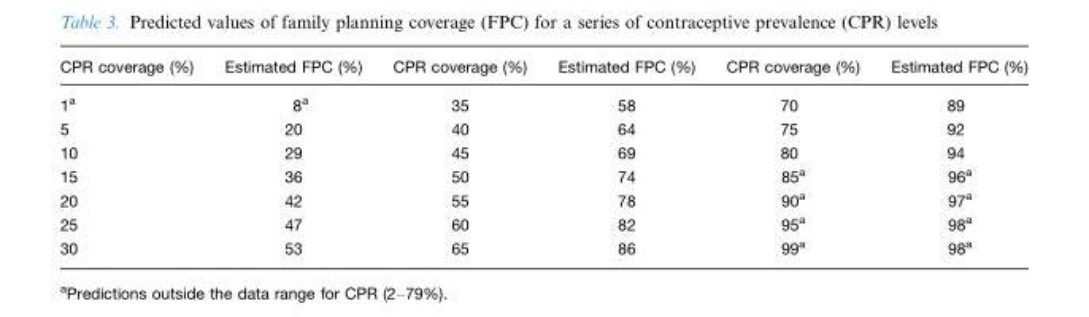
<table><thead><tr><td>CPR coverage (%)</td><td>Estimated FPC (%)</td><td>CPR coverage (%)</td><td>Estimated FPC (%)</td><td>CPR coverage (%)</td><td>Estimated FPC (%)</td></tr></thead><tbody><tr><td>1<sup>a</sup></td><td>8<sup>a</sup></td><td>35</td><td>58</td><td>70</td><td>89</td></tr><tr><td>5</td><td>20</td><td>40</td><td>64</td><td>75</td><td>92</td></tr><tr><td>10</td><td>29</td><td>45</td><td>69</td><td>80</td><td>94</td></tr><tr><td>15</td><td>36</td><td>50</td><td>74</td><td>85<sup>a</sup></td><td>96<sup>a</sup></td></tr><tr><td>20</td><td>42</td><td>55</td><td>78</td><td>90<sup>a</sup></td><td>97<sup>a</sup></td></tr><tr><td>25</td><td>47</td><td>60</td><td>82</td><td>95<sup>a</sup></td><td>98<sup>a</sup></td></tr><tr><td>30</td><td>53</td><td>65</td><td>86</td><td>99<sup>a</sup></td><td>98<sup>a</sup></td></tr></tbody></table>